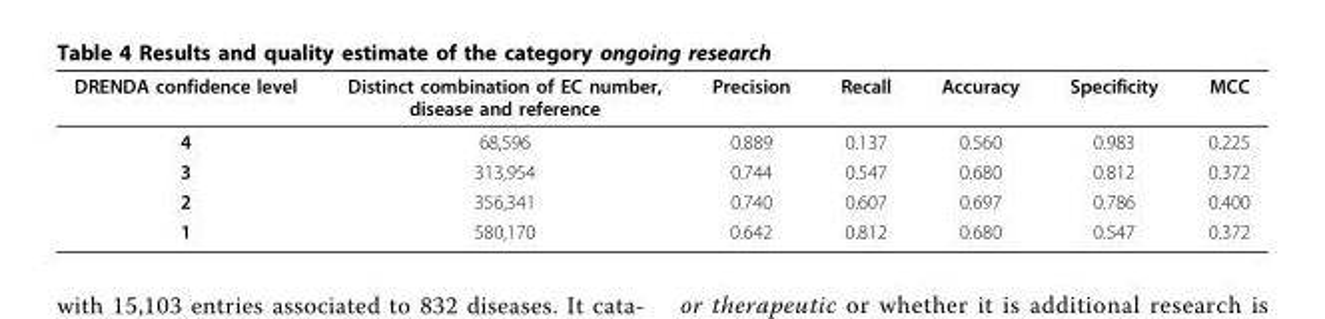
<table><thead><tr><td>DRENDA confidence level</td><td>Distinct combination of EC number, disease and reference</td><td>Precision</td><td>Recall</td><td>Accuracy</td><td>Specificity</td><td>MCC</td></tr></thead><tbody><tr><td>4</td><td>68,596</td><td>0.889</td><td>0.137</td><td>0.560</td><td>0.983</td><td>0.225</td></tr><tr><td>3</td><td>313,954</td><td>0.744</td><td>0.547</td><td>0.680</td><td>0.812</td><td>0.372</td></tr><tr><td>2</td><td>356,341</td><td>0.740</td><td>0.607</td><td>0.697</td><td>0.786</td><td>0.400</td></tr><tr><td>1</td><td>580,170</td><td>0.642</td><td>0.812</td><td>0.680</td><td>0.547</td><td>0.372</td></tr></tbody></table>